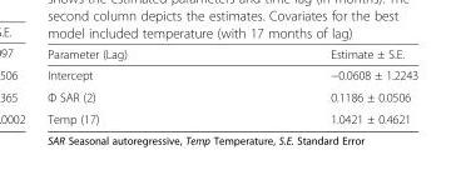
<table><thead><tr><td>Parameter (Lag)</td><td>Estimate ± S.E.</td></tr></thead><tbody><tr><td>Intercept</td><td>−0.0608 ± 1.2243</td></tr><tr><td>Φ SAR (2)</td><td>0.1186 ± 0.0506</td></tr><tr><td>Temp (17)</td><td>1.0421 ± 0.4621</td></tr></tbody></table>